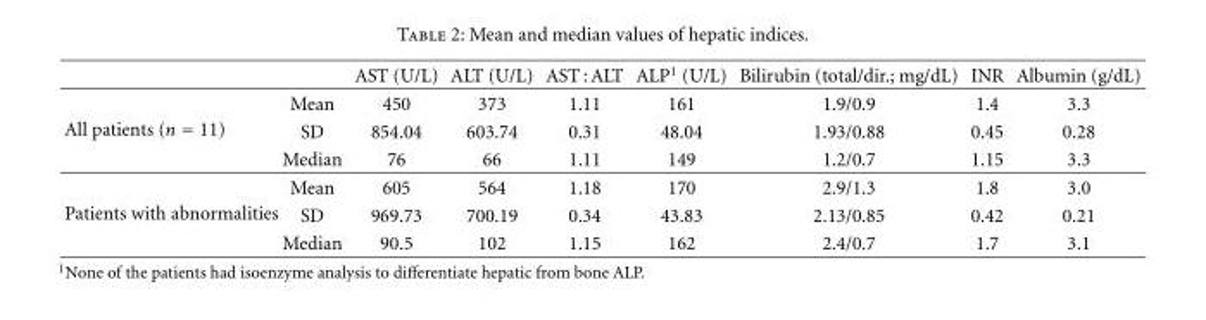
<table><thead><tr><td></td><td></td><td>AST (U/L)</td><td>ALT (U/L)</td><td>AST : ALT</td><td>ALP<sup>1</sup> (U/L)</td><td>Bilirubin (total/dir.; mg/dL)</td><td>INR</td><td>Albumin (g/dL)</td></tr></thead><tbody><tr><td rowspan="3">All patients (n = 11)</td><td>Mean</td><td>450</td><td>373</td><td>1.11</td><td>161</td><td>1.9/0.9</td><td>1.4</td><td>3.3</td></tr><tr><td>SD</td><td>854.04</td><td>603.74</td><td>0.31</td><td>48.04</td><td>1.93/0.88</td><td>0.45</td><td>0.28</td></tr><tr><td>Median</td><td>76</td><td>66</td><td>1.11</td><td>149</td><td>1.2/0.7</td><td>1.15</td><td>3.3</td></tr><tr><td rowspan="3">Patients with abnormalities</td><td>Mean</td><td>605</td><td>564</td><td>1.18</td><td>170</td><td>2.9/1.3</td><td>1.8</td><td>3.0</td></tr><tr><td>SD</td><td>969.73</td><td>700.19</td><td>0.34</td><td>43.83</td><td>2.13/0.85</td><td>0.42</td><td>0.21</td></tr><tr><td>Median</td><td>90.5</td><td>102</td><td>1.15</td><td>162</td><td>2.4/0.7</td><td>1.7</td><td>3.1</td></tr></tbody></table>